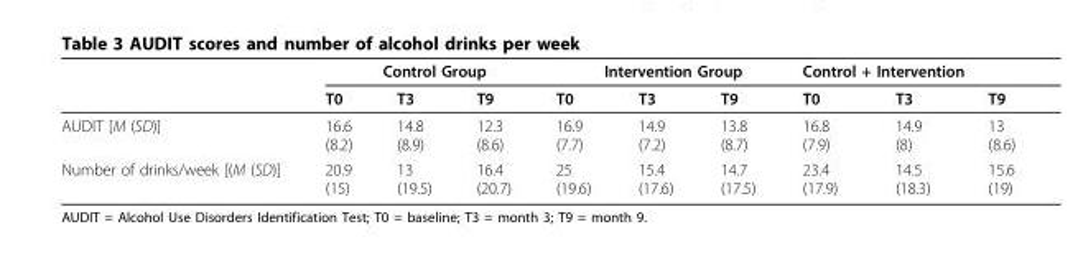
<table><thead><tr><td rowspan="2"></td><td colspan="3">Control Group</td><td colspan="3">Intervention Group</td><td colspan="3">Control + Intervention</td></tr><tr><td>T0</td><td>T3</td><td>T9</td><td>T0</td><td>T3</td><td>T9</td><td>T0</td><td>T3</td><td>T9</td></tr></thead><tbody><tr><td>AUDIT [M (SD)]</td><td>16.6 (8.2)</td><td>14.8 (8.9)</td><td>12.3 (8.6)</td><td>16.9 (7.7)</td><td>14.9 (7.2)</td><td>13.8 (8.7)</td><td>16.8 (7.9)</td><td>14.9 (8)</td><td>13 (8.6)</td></tr><tr><td>Number of drinks/week [(M (SD)]</td><td>20.9 (15)</td><td>13 (19.5)</td><td>16.4 (20.7)</td><td>25 (19.6)</td><td>15.4 (17.6)</td><td>14.7 (17.5)</td><td>23.4 (17.9)</td><td>14.5 (18.3)</td><td>15.6 (19)</td></tr></tbody></table>